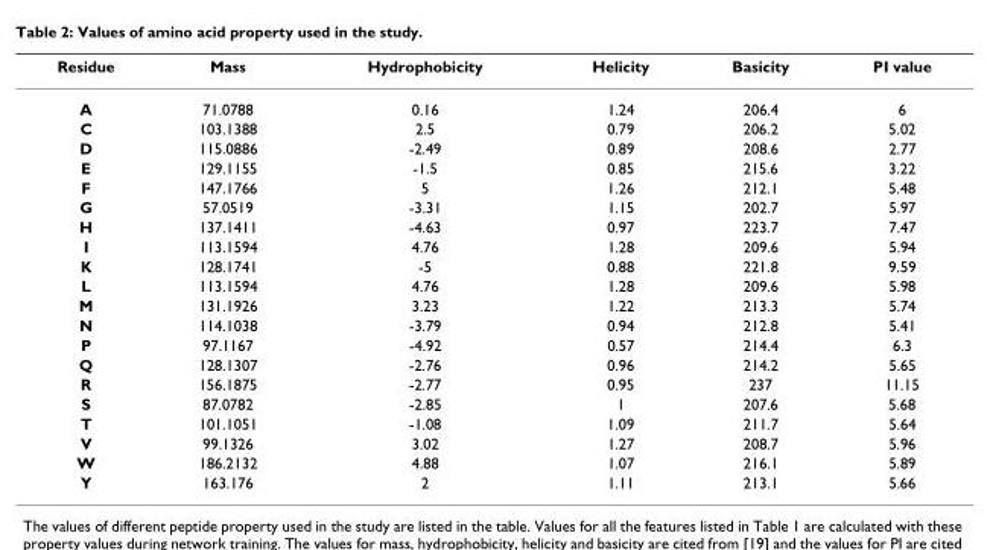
<table><thead><tr><td>Residue</td><td>Mass</td><td>Hydrophobicity</td><td>Helicity</td><td>Basicity</td><td>PI value</td></tr></thead><tbody><tr><td>A</td><td>71.0788</td><td>0.16</td><td>1.24</td><td>206.4</td><td>6</td></tr><tr><td>C</td><td>103.1388</td><td>2.5</td><td>0.79</td><td>206.2</td><td>5.02</td></tr><tr><td>D</td><td>115.0886</td><td>-2.49</td><td>0.89</td><td>208.6</td><td>2.77</td></tr><tr><td>E</td><td>129.1155</td><td>-1.5</td><td>0.85</td><td>215.6</td><td>3.22</td></tr><tr><td>F</td><td>147.1766</td><td>5</td><td>1.26</td><td>212.1</td><td>5.48</td></tr><tr><td>G</td><td>57.0519</td><td>-3.31</td><td>1.15</td><td>202.7</td><td>5.97</td></tr><tr><td>H</td><td>137.1411</td><td>-4.63</td><td>0.97</td><td>223.7</td><td>7.47</td></tr><tr><td>I</td><td>113.1594</td><td>4.76</td><td>1.28</td><td>209.6</td><td>5.94</td></tr><tr><td>K</td><td>128.1741</td><td>-5</td><td>0.88</td><td>221.8</td><td>9.59</td></tr><tr><td>L</td><td>113.1594</td><td>4.76</td><td>1.28</td><td>209.6</td><td>5.98</td></tr><tr><td>M</td><td>131.1926</td><td>3.23</td><td>1.22</td><td>213.3</td><td>5.74</td></tr><tr><td>N</td><td>114.1038</td><td>-3.79</td><td>0.94</td><td>212.8</td><td>5.41</td></tr><tr><td>P</td><td>97.1167</td><td>-4.92</td><td>0.57</td><td>214.4</td><td>6.3</td></tr><tr><td>Q</td><td>128.1307</td><td>-2.76</td><td>0.96</td><td>214.2</td><td>5.65</td></tr><tr><td>R</td><td>156.1875</td><td>-2.77</td><td>0.95</td><td>237</td><td>11.15</td></tr><tr><td>S</td><td>87.0782</td><td>-2.85</td><td>1</td><td>207.6</td><td>5.68</td></tr><tr><td>T</td><td>101.1051</td><td>-1.08</td><td>1.09</td><td>211.7</td><td>5.64</td></tr><tr><td>V</td><td>99.1326</td><td>3.02</td><td>1.27</td><td>208.7</td><td>5.96</td></tr><tr><td>W</td><td>186.2132</td><td>4.88</td><td>1.07</td><td>216.1</td><td>5.89</td></tr><tr><td>Y</td><td>163.176</td><td>2</td><td>1.11</td><td>213.1</td><td>5.66</td></tr></tbody></table>